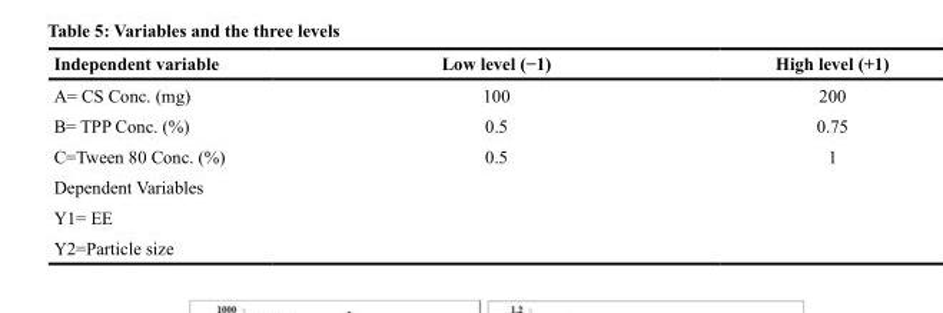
<table><thead><tr><td>Independent variable</td><td>Low level (−1)</td><td>High level (+1)</td></tr></thead><tbody><tr><td>A= CS Conc. (mg)</td><td>100</td><td>200</td></tr><tr><td>B= TPP Conc. (%)</td><td>0.5</td><td>0.75</td></tr><tr><td>C=Tween 80 Conc. (%)</td><td>0.5</td><td>1</td></tr><tr><td colspan="3">Dependent Variables</td></tr><tr><td colspan="3">Y1= EE</td></tr><tr><td>Y2=Particle size</td><td></td><td></td></tr></tbody></table>